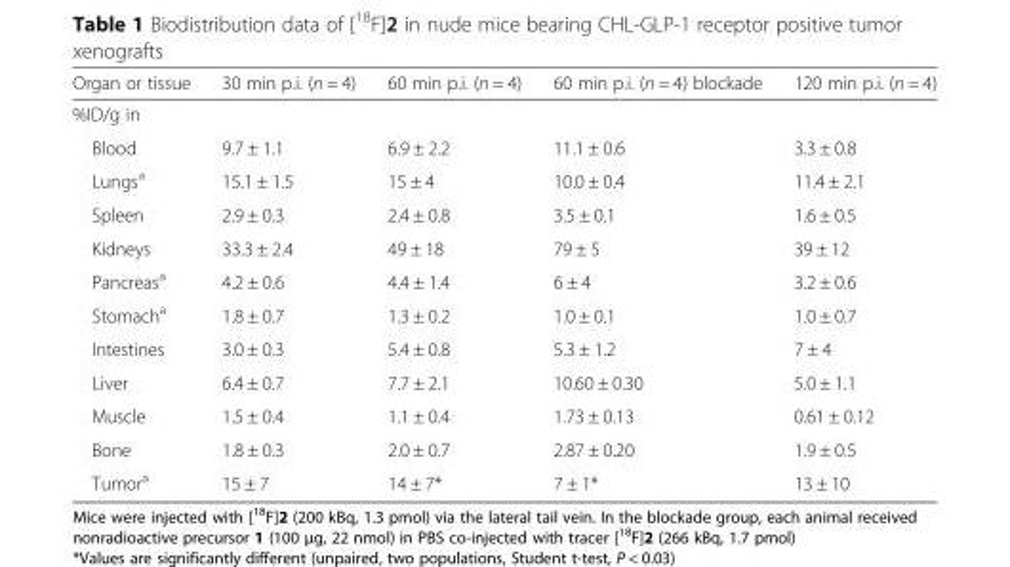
<table><thead><tr><td>Organ or tissue</td><td>30 min p.i. (n = 4)</td><td>60 min p.i. (n = 4)</td><td>60 min p.i. (n = 4) blockade</td><td>120 min p.i. (n = 4)</td></tr></thead><tbody><tr><td colspan="5">%ID/g in</td></tr><tr><td>Blood</td><td>9.7 ± 1.1</td><td>6.9 ± 2.2</td><td>11.1 ± 0.6</td><td>3.3 ± 0.8</td></tr><tr><td>Lungs<sup>a</sup></td><td>15.1 ± 1.5</td><td>15 ± 4</td><td>10.0 ± 0.4</td><td>11.4 ± 2.1</td></tr><tr><td>Spleen</td><td>2.9 ± 0.3</td><td>2.4 ± 0.8</td><td>3.5 ± 0.1</td><td>1.6 ± 0.5</td></tr><tr><td>Kidneys</td><td>33.3 ± 2.4</td><td>49 ± 18</td><td>79 ± 5</td><td>39 ± 12</td></tr><tr><td>Pancreas<sup>a</sup></td><td>4.2 ± 0.6</td><td>4.4 ± 1.4</td><td>6 ± 4</td><td>3.2 ± 0.6</td></tr><tr><td>Stomach<sup>a</sup></td><td>1.8 ± 0.7</td><td>1.3 ± 0.2</td><td>1.0 ± 0.1</td><td>1.0 ± 0.7</td></tr><tr><td>Intestines</td><td>3.0 ± 0.3</td><td>5.4 ± 0.8</td><td>5.3 ± 1.2</td><td>7 ± 4</td></tr><tr><td>Liver</td><td>6.4 ± 0.7</td><td>7.7 ± 2.1</td><td>10.60 ± 0.30</td><td>5.0 ± 1.1</td></tr><tr><td>Muscle</td><td>1.5 ± 0.4</td><td>1.1 ± 0.4</td><td>1.73 ± 0.13</td><td>0.61 ± 0.12</td></tr><tr><td>Bone</td><td>1.8 ± 0.3</td><td>2.0 ± 0.7</td><td>2.87 ± 0.20</td><td>1.9 ± 0.5</td></tr><tr><td>Tumor<sup>a</sup></td><td>15 ± 7</td><td>14 ± 7*</td><td>7 ± 1*</td><td>13 ± 10</td></tr></tbody></table>